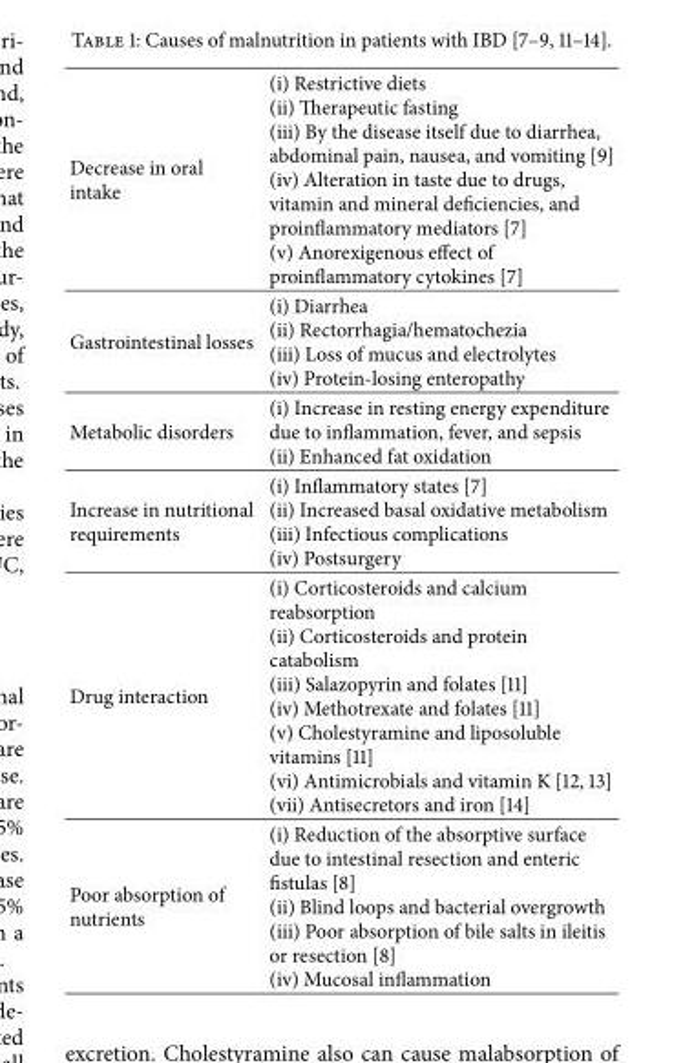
<table><tbody><tr><td>Decrease in oral intake</td><td>(i) Restrictive diets (ii) Therapeutic fasting (iii) By the disease itself due to diarrhea, abdominal pain, nausea, and vomiting [9] (iv) Alteration in taste due to drugs, vitamin and mineral deficiencies, and proinflammatory mediators [7] (v) Anorexigenous effect of proinflammatory cytokines [7]</td></tr><tr><td>Gastrointestinal losses</td><td>(i) Diarrhea (ii) Rectorrhagia/hematochezia (iii) Loss of mucus and electrolytes (iv) Protein-losing enteropathy</td></tr><tr><td>Metabolic disorders</td><td>(i) Increase in resting energy expenditure due to inflammation, fever, and sepsis (ii) Enhanced fat oxidation</td></tr><tr><td>Increase in nutritional requirements</td><td>(i) Inflammatory states [7] (ii) Increased basal oxidative metabolism (iii) Infectious complications (iv) Postsurgery</td></tr><tr><td>Drug interaction</td><td>(i) Corticosteroids and calcium reabsorption (ii) Corticosteroids and protein catabolism (iii) Salazopyrin and folates [11] (iv) Methotrexate and folates [11] (v) Cholestyramine and liposoluble vitamins [11] (vi) Antimicrobials and vitamin K [12, 13] (vii) Antisecretors and iron [14]</td></tr><tr><td>Poor absorption of nutrients</td><td>(i) Reduction of the absorptive surface due to intestinal resection and enteric fistulas [8] (ii) Blind loops and bacterial overgrowth (iii) Poor absorption of bile salts in ileitis or resection [8] (iv) Mucosal inflammation</td></tr></tbody></table>